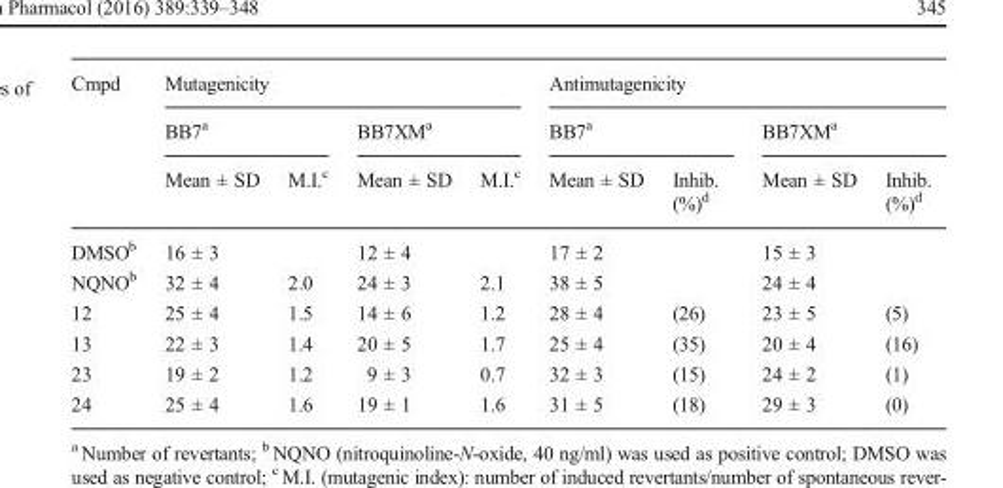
<table><thead><tr><td rowspan="3">Cmpd</td><td colspan="4">Mutagenicity</td><td colspan="4">Antimutagenicity</td></tr><tr><td colspan="2">BB7<sup>a</sup></td><td colspan="2">BB7XM<sup>a</sup></td><td colspan="2">BB7<sup>a</sup></td><td colspan="2">BB7XM<sup>a</sup></td></tr><tr><td>Mean ± SD</td><td>M.I.<sup>c</sup></td><td>Mean ± SD</td><td>M.I.<sup>c</sup></td><td>Mean ± SD</td><td>Inhib. (%)<sup>d</sup></td><td>Mean ± SD</td><td>Inhib. (%)<sup>d</sup></td></tr></thead><tbody><tr><td>DMSO<sup>b</sup></td><td>16 ± 3</td><td></td><td>12 ± 4</td><td></td><td>17 ± 2</td><td></td><td>15 ± 3</td><td></td></tr><tr><td>NQNO<sup>b</sup></td><td>32 ± 4</td><td>2.0</td><td>24 ± 3</td><td>2.1</td><td>38 ± 5</td><td></td><td>24 ± 4</td><td></td></tr><tr><td>12</td><td>25 ± 4</td><td>1.5</td><td>14 ± 6</td><td>1.2</td><td>28 ± 4</td><td>(26)</td><td>23 ± 5</td><td>(5)</td></tr><tr><td>13</td><td>22 ± 3</td><td>1.4</td><td>20 ± 5</td><td>1.7</td><td>25 ± 4</td><td>(35)</td><td>20 ± 4</td><td>(16)</td></tr><tr><td>23</td><td>19 ± 2</td><td>1.2</td><td>9 ± 3</td><td>0.7</td><td>32 ± 3</td><td>(15)</td><td>24 ± 2</td><td>(1)</td></tr><tr><td>24</td><td>25 ± 4</td><td>1.6</td><td>19 ± 1</td><td>1.6</td><td>31 ± 5</td><td>(18)</td><td>29 ± 3</td><td>(0)</td></tr></tbody></table>